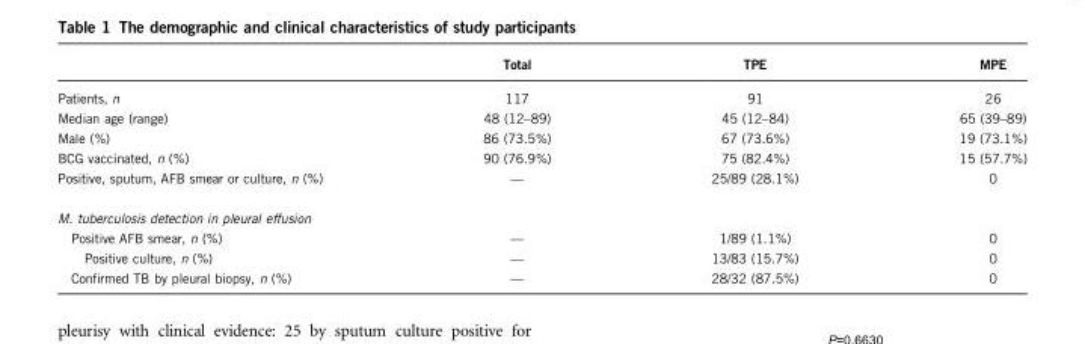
<table><thead><tr><td></td><td>Total</td><td>TPE</td><td>MPE</td></tr></thead><tbody><tr><td>Patients, n</td><td>117</td><td>91</td><td>26</td></tr><tr><td>Median age (range)</td><td>48 (12–89)</td><td>45 (12–84)</td><td>65 (39–89)</td></tr><tr><td>Male (%)</td><td>86 (73.5%)</td><td>67 (73.6%)</td><td>19 (73.1%)</td></tr><tr><td>BCG vaccinated, n (%)</td><td>90 (76.9%)</td><td>75 (82.4%)</td><td>15 (57.7%)</td></tr><tr><td>Positive, sputum, AFB smear or culture, n (%)</td><td>—</td><td>25/89 (28.1%)</td><td>0</td></tr><tr><td colspan="4">M. tuberculosis detection in pleural effusion</td></tr><tr><td>Positive AFB smear, n (%)</td><td>—</td><td>1/89 (1.1%)</td><td>0</td></tr><tr><td>Positive culture, n (%)</td><td>—</td><td>13/83 (15.7%)</td><td>0</td></tr><tr><td>Confirmed TB by pleural biopsy, n (%)</td><td>—</td><td>28/32 (87.5%)</td><td>0</td></tr></tbody></table>